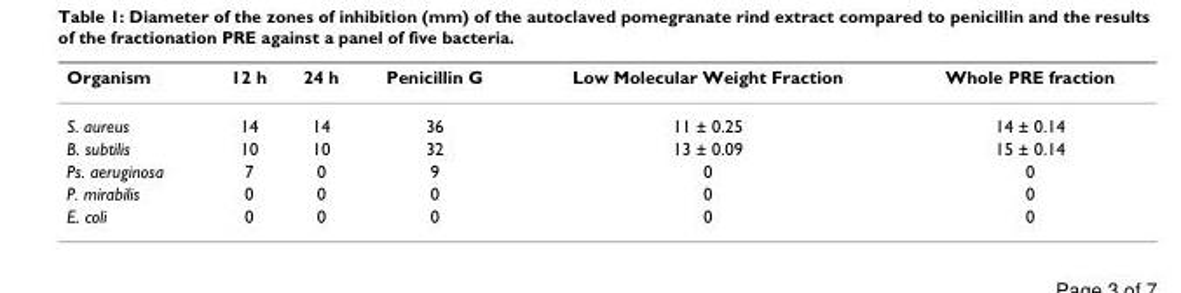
<table><thead><tr><td>Organism</td><td>12 h</td><td>24 h</td><td>Penicillin G</td><td>Low Molecular Weight Fraction</td><td>Whole PRE fraction</td></tr></thead><tbody><tr><td>S. aureus</td><td>14</td><td>14</td><td>36</td><td>11 ± 0.25</td><td>14 ± 0.14</td></tr><tr><td>B. subtilis</td><td>10</td><td>10</td><td>32</td><td>13 ± 0.09</td><td>15 ± 0.14</td></tr><tr><td>Ps. aeruginosa</td><td>7</td><td>0</td><td>9</td><td>0</td><td>0</td></tr><tr><td>P. mirabilis</td><td>0</td><td>0</td><td>0</td><td>0</td><td>0</td></tr><tr><td>E. coli</td><td>0</td><td>0</td><td>0</td><td>0</td><td>0</td></tr></tbody></table>